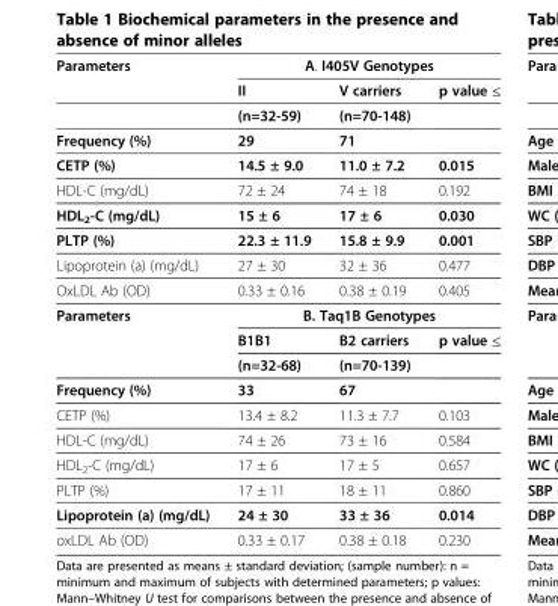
<table><thead><tr><td rowspan="2">Parameters</td><td colspan="3">A. I405V Genotypes</td></tr><tr><td>II</td><td>V carriers</td><td>p value ≤</td></tr></thead><tbody><tr><td></td><td>(n=32-59)</td><td>(n=70-148)</td><td></td></tr><tr><td>Frequency (%)</td><td>29</td><td>71</td><td></td></tr><tr><td>CETP (%)</td><td>14.5 ± 9.0</td><td>11.0 ± 7.2</td><td>0.015</td></tr><tr><td>HDL-C (mg/dL)</td><td>72 ± 24</td><td>74 ± 18</td><td>0.192</td></tr><tr><td>HDL<sub>2</sub>-C (mg/dL)</td><td>15 ± 6</td><td>17 ± 6</td><td>0.030</td></tr><tr><td>PLTP (%)</td><td>22.3 ± 11.9</td><td>15.8 ± 9.9</td><td>0.001</td></tr><tr><td>Lipoprotein (a) (mg/dL)</td><td>27 ± 30</td><td>32 ± 36</td><td>0.477</td></tr><tr><td>OxLDL Ab (OD)</td><td>0.33 ± 0.16</td><td>0.38 ± 0.19</td><td>0.405</td></tr><tr><td rowspan="3">Parameters</td><td colspan="3">B. Taq1B Genotypes</td></tr><tr><td>B1B1</td><td>B2 carriers</td><td>p value ≤</td></tr><tr><td>(n=32-68)</td><td>(n=70-139)</td><td></td></tr><tr><td>Frequency (%)</td><td>33</td><td>67</td><td></td></tr><tr><td>CETP (%)</td><td>13.4 ± 8.2</td><td>11.3 ± 7.7</td><td>0.103</td></tr><tr><td>HDL-C (mg/dL)</td><td>74 ± 26</td><td>73 ± 16</td><td>0.584</td></tr><tr><td>HDL<sub>2</sub>-C (mg/dL)</td><td>17 ± 6</td><td>17 ± 5</td><td>0.657</td></tr><tr><td>PLTP (%)</td><td>17 ± 11</td><td>18 ± 11</td><td>0.860</td></tr><tr><td>Lipoprotein (a) (mg/dL)</td><td>24 ± 30</td><td>33 ± 36</td><td>0.014</td></tr><tr><td>oxLDL Ab (OD)</td><td>0.33 ± 0.17</td><td>0.38 ± 0.18</td><td>0.230</td></tr></tbody></table>